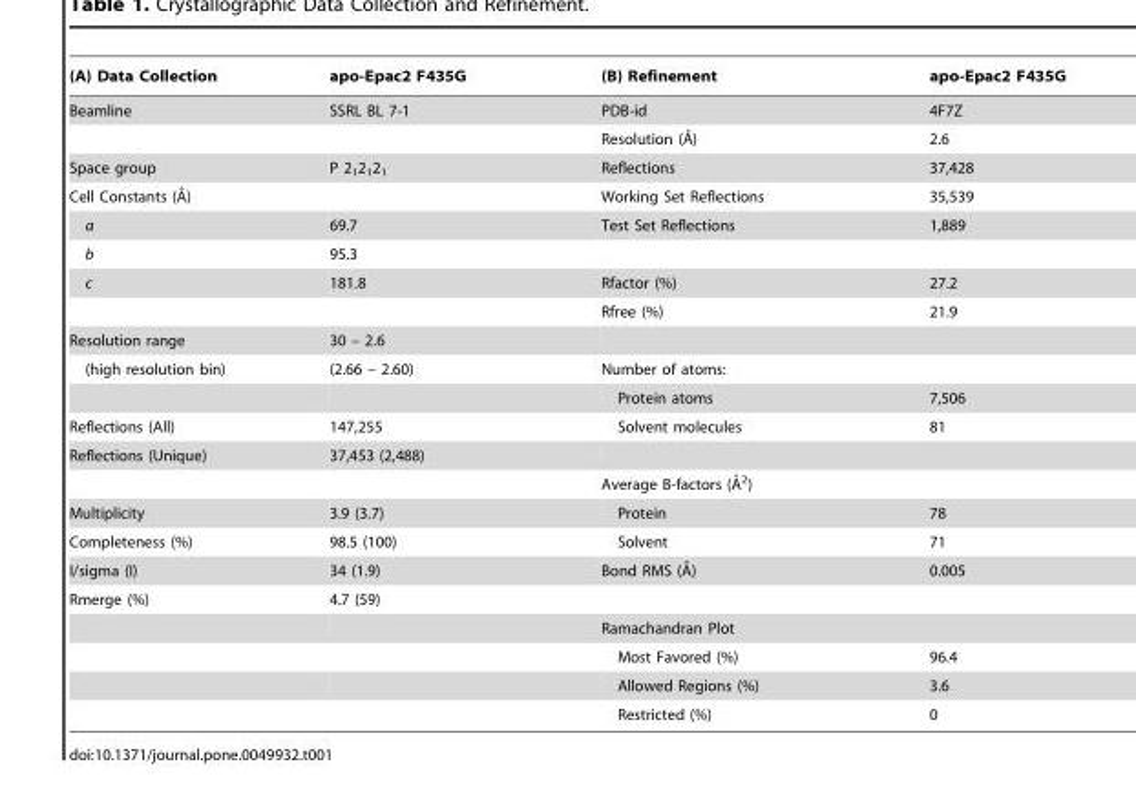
<table><thead><tr><td>(A) Data Collection</td><td>apo-Epac2 F435G</td><td>(B) Refinement</td><td>apo-Epac2 F435G</td></tr></thead><tbody><tr><td rowspan="2">Beamline</td><td>SSRL BL 7-1</td><td>PDB-id</td><td>4F7Z</td></tr><tr><td></td><td>Resolution (A˚)</td><td>2.6</td></tr><tr><td>Space group</td><td>P 2<sub>1</sub>2<sub>1</sub>2<sub>1</sub></td><td>Reflections</td><td>37,428</td></tr><tr><td>Cell Constants (A˚)</td><td></td><td>Working Set Reflections</td><td>35,539</td></tr><tr><td>a</td><td>69.7</td><td>Test Set Reflections</td><td>1,889</td></tr><tr><td>b</td><td>95.3</td><td></td><td></td></tr><tr><td rowspan="2">c</td><td>181.8</td><td>Rfactor (%)</td><td>27.2</td></tr><tr><td></td><td>Rfree (%)</td><td>21.9</td></tr><tr><td>Resolution range</td><td>30 – 2.6</td><td></td><td></td></tr><tr><td rowspan="2">(high resolution bin)</td><td>(2.66 – 2.60)</td><td>Number of atoms:</td><td></td></tr><tr><td></td><td>Protein atoms</td><td>7,506</td></tr><tr><td>Reflections (All)</td><td>147,255</td><td>Solvent molecules</td><td>81</td></tr><tr><td rowspan="2">Reflections (Unique)</td><td>37,453 (2,488)</td><td></td><td></td></tr><tr><td></td><td>Average B-factors (A˚2)</td><td></td></tr><tr><td>Multiplicity</td><td>3.9 (3.7)</td><td>Protein</td><td>78</td></tr><tr><td>Completeness (%)</td><td>98.5 (100)</td><td>Solvent</td><td>71</td></tr><tr><td>I/sigma (I)</td><td>34 (1.9)</td><td>Bond RMS (A˚)</td><td>0.005</td></tr><tr><td rowspan="5">Rmerge (%)</td><td>4.7 (59)</td><td></td><td></td></tr><tr><td></td><td>Ramachandran Plot</td><td></td></tr><tr><td></td><td>Most Favored (%)</td><td>96.4</td></tr><tr><td></td><td>Allowed Regions (%)</td><td>3.6</td></tr><tr><td></td><td>Restricted (%)</td><td>0</td></tr></tbody></table>